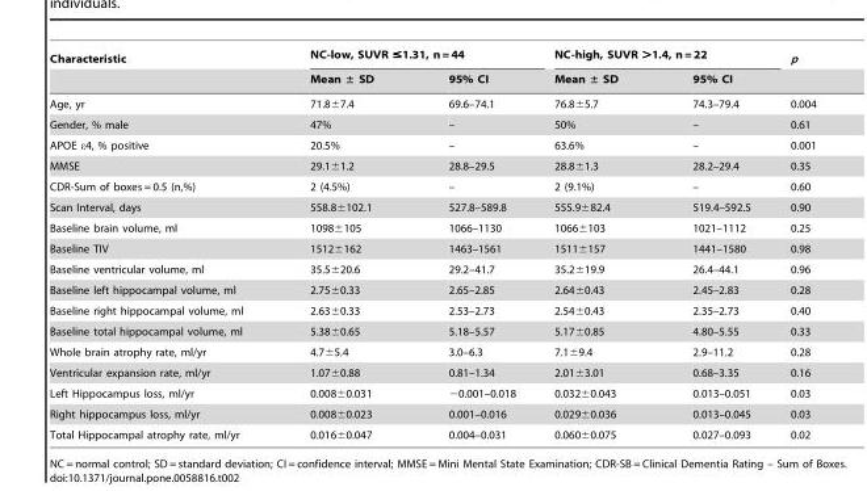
<table><thead><tr><td rowspan="2">Characteristic</td><td colspan="2">NC-low, SUVR ≤1.31, n = 44</td><td colspan="2">NC-high, SUVR &gt;1.4, n = 22</td><td rowspan="2">p</td></tr><tr><td>Mean ± SD</td><td>95% CI</td><td>Mean ± SD</td><td>95% CI</td></tr></thead><tbody><tr><td>Age, yr</td><td>71.8±7.4</td><td>69.6–74.1</td><td>76.8±5.7</td><td>74.3–79.4</td><td>0.004</td></tr><tr><td>Gender, % male</td><td>47%</td><td>–</td><td>50%</td><td>–</td><td>0.61</td></tr><tr><td>APOE ε4, % positive</td><td>20.5%</td><td>–</td><td>63.6%</td><td>–</td><td>0.001</td></tr><tr><td>MMSE</td><td>29.1±1.2</td><td>28.8–29.5</td><td>28.8±1.3</td><td>28.2–29.4</td><td>0.35</td></tr><tr><td>CDR-Sum of boxes = 0.5 (n,%)</td><td>2 (4.5%)</td><td>–</td><td>2 (9.1%)</td><td>–</td><td>0.60</td></tr><tr><td>Scan Interval, days</td><td>558.8±102.1</td><td>527.8–589.8</td><td>555.9±82.4</td><td>519.4–592.5</td><td>0.90</td></tr><tr><td>Baseline brain volume, ml</td><td>1098±105</td><td>1066–1130</td><td>1066±103</td><td>1021–1112</td><td>0.25</td></tr><tr><td>Baseline TIV</td><td>1512±162</td><td>1463–1561</td><td>1511±157</td><td>1441–1580</td><td>0.98</td></tr><tr><td>Baseline ventricular volume, ml</td><td>35.5±20.6</td><td>29.2–41.7</td><td>35.2±19.9</td><td>26.4–44.1</td><td>0.96</td></tr><tr><td>Baseline left hippocampal volume, ml</td><td>2.75±0.33</td><td>2.65–2.85</td><td>2.64±0.43</td><td>2.45–2.83</td><td>0.28</td></tr><tr><td>Baseline right hippocampal volume, ml</td><td>2.63±0.33</td><td>2.53–2.73</td><td>2.54±0.43</td><td>2.35–2.73</td><td>0.40</td></tr><tr><td>Baseline total hippocampal volume, ml</td><td>5.38±0.65</td><td>5.18–5.57</td><td>5.17±0.85</td><td>4.80–5.55</td><td>0.33</td></tr><tr><td>Whole brain atrophy rate, ml/yr</td><td>4.7±5.4</td><td>3.0–6.3</td><td>7.1±9.4</td><td>2.9–11.2</td><td>0.28</td></tr><tr><td>Ventricular expansion rate, ml/yr</td><td>1.07±0.88</td><td>0.81–1.34</td><td>2.01±3.01</td><td>0.68–3.35</td><td>0.16</td></tr><tr><td>Left Hippocampus loss, ml/yr</td><td>0.008±0.031</td><td>−0.001–0.018</td><td>0.032±0.043</td><td>0.013–0.051</td><td>0.03</td></tr><tr><td>Right hippocampus loss, ml/yr</td><td>0.008±0.023</td><td>0.001–0.016</td><td>0.029±0.036</td><td>0.013–0.045</td><td>0.03</td></tr><tr><td>Total Hippocampal atrophy rate, ml/yr</td><td>0.016±0.047</td><td>0.004–0.031</td><td>0.060±0.075</td><td>0.027–0.093</td><td>0.02</td></tr></tbody></table>